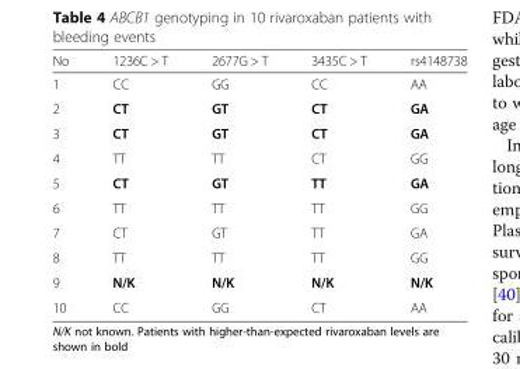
<table><thead><tr><td>No</td><td>1236C &gt; T</td><td>2677G &gt; T</td><td>3435C &gt; T</td><td>rs4148738</td></tr></thead><tbody><tr><td>1</td><td>CC</td><td>GG</td><td>CC</td><td>AA</td></tr><tr><td>2</td><td>CT</td><td>GT</td><td>CT</td><td>GA</td></tr><tr><td>3</td><td>CT</td><td>GT</td><td>CT</td><td>GA</td></tr><tr><td>4</td><td>TT</td><td>TT</td><td>CT</td><td>GG</td></tr><tr><td>5</td><td>CT</td><td>GT</td><td>TT</td><td>GA</td></tr><tr><td>6</td><td>TT</td><td>TT</td><td>TT</td><td>GG</td></tr><tr><td>7</td><td>CT</td><td>GT</td><td>TT</td><td>GA</td></tr><tr><td>8</td><td>TT</td><td>TT</td><td>TT</td><td>GG</td></tr><tr><td>9</td><td>N/K</td><td>N/K</td><td>N/K</td><td>N/K</td></tr><tr><td>10</td><td>CC</td><td>GG</td><td>CT</td><td>AA</td></tr></tbody></table>